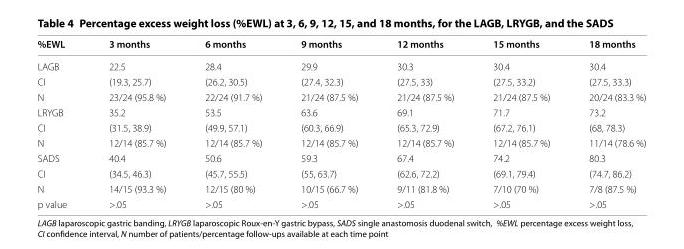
<table><thead><tr><td>%EWL</td><td>3 months</td><td>6 months</td><td>9 months</td><td>12 months</td><td>15 months</td><td>18 months</td></tr></thead><tbody><tr><td>LAGB</td><td>22.5</td><td>28.4</td><td>29.9</td><td>30.3</td><td>30.4</td><td>30.4</td></tr><tr><td>CI</td><td>(19.3, 25.7)</td><td>(26.2, 30.5)</td><td>(27.4, 32.3)</td><td>(27.5, 33)</td><td>(27.5, 33.2)</td><td>(27.5, 33.3)</td></tr><tr><td>N</td><td>23/24 (95.8 %)</td><td>22/24 (91.7 %)</td><td>21/24 (87.5 %)</td><td>21/24 (87.5 %)</td><td>21/24 (87.5 %)</td><td>20/24 (83.3 %)</td></tr><tr><td>LRYGB</td><td>35.2</td><td>53.5</td><td>63.6</td><td>69.1</td><td>71.7</td><td>73.2</td></tr><tr><td>CI</td><td>(31.5, 38.9)</td><td>(49.9, 57.1)</td><td>(60.3, 66.9)</td><td>(65.3, 72.9)</td><td>(67.2, 76.1)</td><td>(68, 78.3)</td></tr><tr><td>N</td><td>12/14 (85.7 %)</td><td>12/14 (85.7 %)</td><td>12/14 (85.7 %)</td><td>12/14 (85.7 %)</td><td>12/14 (85.7 %)</td><td>11/14 (78.6 %)</td></tr><tr><td>SADS</td><td>40.4</td><td>50.6</td><td>59.3</td><td>67.4</td><td>74.2</td><td>80.3</td></tr><tr><td>CI</td><td>(34.5, 46.3)</td><td>(45.7, 55.5)</td><td>(55, 63.7)</td><td>(62.6, 72.2)</td><td>(69.1, 79.4)</td><td>(74.7, 86.2)</td></tr><tr><td>N</td><td>14/15 (93.3 %)</td><td>12/15 (80 %)</td><td>10/15 (66.7 %)</td><td>9/11 (81.8 %)</td><td>7/10 (70 %)</td><td>7/8 (87.5 %)</td></tr><tr><td>p value</td><td>&gt;.05</td><td>&gt;.05</td><td>&gt;.05</td><td>&gt;.05</td><td>&gt;.05</td><td>&gt;.05</td></tr></tbody></table>